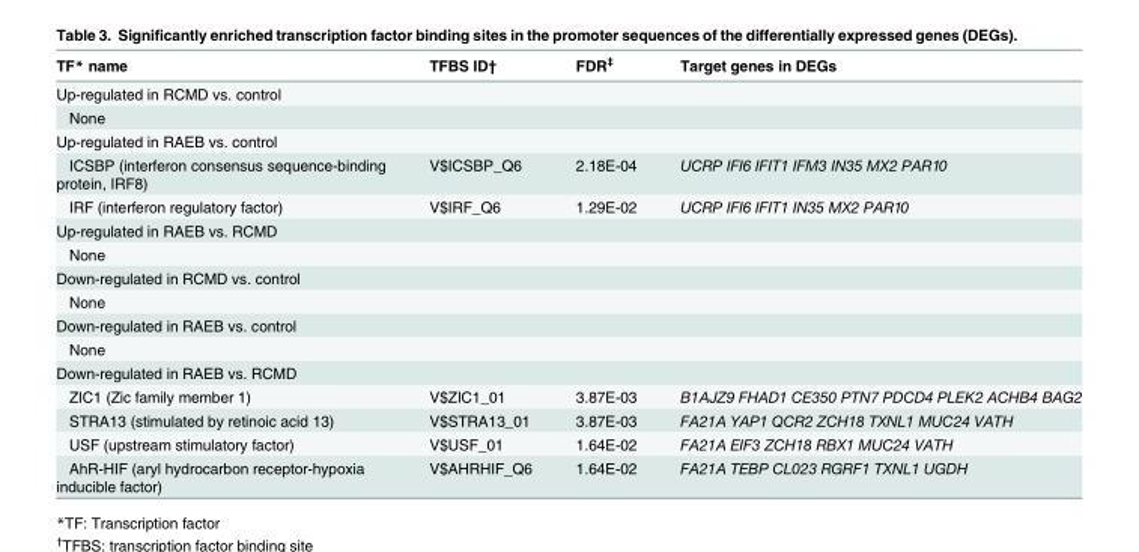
<table><thead><tr><td>TF* name</td><td>TFBS ID†</td><td>FDR<sup>‡</sup></td><td>Target genes in DEGs</td></tr></thead><tbody><tr><td colspan="4">Up-regulated in RCMD vs. control</td></tr><tr><td colspan="4">None</td></tr><tr><td colspan="4">Up-regulated in RAEB vs. control</td></tr><tr><td>ICSBP (interferon consensus sequence-binding protein, IRF8)</td><td>V$ICSBP_Q6</td><td>2.18E-04</td><td>UCRP IFI6 IFIT1 IFM3 IN35 MX2 PAR10</td></tr><tr><td>IRF (interferon regulatory factor)</td><td>V$IRF_Q6</td><td>1.29E-02</td><td>UCRP IFI6 IFIT1 IN35 MX2 PAR10</td></tr><tr><td colspan="4">Up-regulated in RAEB vs. RCMD</td></tr><tr><td colspan="4">None</td></tr><tr><td colspan="4">Down-regulated in RCMD vs. control</td></tr><tr><td colspan="4">None</td></tr><tr><td colspan="4">Down-regulated in RAEB vs. control</td></tr><tr><td colspan="4">None</td></tr><tr><td colspan="4">Down-regulated in RAEB vs. RCMD</td></tr><tr><td>ZIC1 (Zic family member 1)</td><td>V$ZIC1_01</td><td>3.87E-03</td><td>B1AJZ9 FHAD1 CE350 PTN7 PDCD4 PLEK2 ACHB4 BAG2</td></tr><tr><td>STRA13 (stimulated by retinoic acid 13)</td><td>V$STRA13_01</td><td>3.87E-03</td><td>FA21A YAP1 QCR2 ZCH18 TXNL1 MUC24 VATH</td></tr><tr><td>USF (upstream stimulatory factor)</td><td>V$USF_01</td><td>1.64E-02</td><td>FA21A EIF3 ZCH18 RBX1 MUC24 VATH</td></tr><tr><td>AhR-HIF (aryl hydrocarbon receptor-hypoxia inducible factor)</td><td>V$AHRHIF_Q6</td><td>1.64E-02</td><td>FA21A TEBP CL023 RGRF1 TXNL1 UGDH</td></tr></tbody></table>